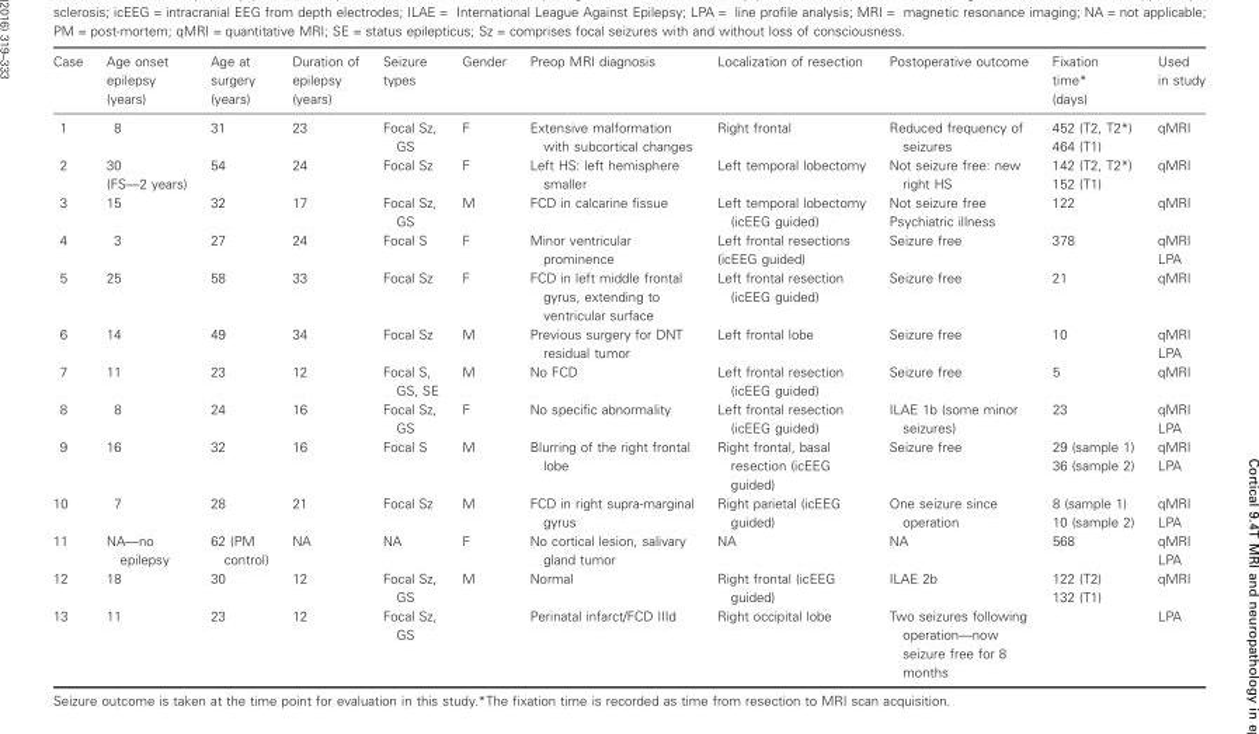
<table><thead><tr><td>Case</td><td>Age onset epilepsy (years)</td><td>Age at surgery (years)</td><td>Duration of epilepsy (years)</td><td>Seizure types</td><td>Gender</td><td>Preop MRI diagnosis</td><td>Localization of resection</td><td>Postoperative outcome</td><td>Fixation time* (days)</td><td>Used in study</td></tr></thead><tbody><tr><td>1</td><td>8</td><td>31</td><td>23</td><td>Focal Sz, GS</td><td>F</td><td>Extensive malformation with subcortical changes</td><td>Right frontal</td><td>Reduced frequency of seizures</td><td>452 (T2, T2*) 464 (T1)</td><td>qMRI</td></tr><tr><td>2</td><td>30 (FS—2 years)</td><td>54</td><td>24</td><td>Focal Sz</td><td>F</td><td>Left HS: left hemisphere smaller</td><td>Left temporal lobectomy</td><td>Not seizure free: new right HS</td><td>142 (T2, T2*) 152 (T1)</td><td>qMRI</td></tr><tr><td>3</td><td>15</td><td>32</td><td>17</td><td>Focal Sz, GS</td><td>M</td><td>FCD in calcarine fissue</td><td>Left temporal lobectomy (icEEG guided)</td><td>Not seizure free Psychiatric illness</td><td>122</td><td>qMRI</td></tr><tr><td>4</td><td>3</td><td>27</td><td>24</td><td>Focal S</td><td>F</td><td>Minor ventricular prominence</td><td>Left frontal resections (icEEG guided)</td><td>Seizure free</td><td>378</td><td>qMRI LPA</td></tr><tr><td>5</td><td>25</td><td>58</td><td>33</td><td>Focal Sz</td><td>F</td><td>FCD in left middle frontal gyrus, extending to ventricular surface</td><td>Left frontal resection (icEEG guided)</td><td>Seizure free</td><td>21</td><td>qMRI</td></tr><tr><td>6</td><td>14</td><td>49</td><td>34</td><td>Focal Sz</td><td>M</td><td>Previous surgery for DNT residual tumor</td><td>Left frontal lobe</td><td>Seizure free</td><td>10</td><td>qMRI LPA</td></tr><tr><td>7</td><td>11</td><td>23</td><td>12</td><td>Focal S, GS, SE</td><td>M</td><td>No FCD</td><td>Left frontal resection (icEEG guided)</td><td>Seizure free</td><td>5</td><td>qMRI</td></tr><tr><td>8</td><td>8</td><td>24</td><td>16</td><td>Focal Sz, GS</td><td>F</td><td>No specific abnormality</td><td>Left frontal resection (icEEG guided)</td><td>ILAE 1b (some minor seizures)</td><td>23</td><td>qMRI LPA</td></tr><tr><td>9</td><td>16</td><td>32</td><td>16</td><td>Focal S</td><td>M</td><td>Blurring of the right frontal lobe</td><td>Right frontal, basal resection (icEEG guided)</td><td>Seizure free</td><td>29 (sample 1) 36 (sample 2)</td><td>qMRI LPA</td></tr><tr><td>10</td><td>7</td><td>28</td><td>21</td><td>Focal Sz</td><td>M</td><td>FCD in right supra-marginal gyrus</td><td>Right parietal (icEEG guided)</td><td>One seizure since operation</td><td>8 (sample 1) 10 (sample 2)</td><td>qMRI LPA</td></tr><tr><td>11</td><td>NA—no epilepsy</td><td>62 (PM control)</td><td>NA</td><td>NA</td><td>F</td><td>No cortical lesion, salivary gland tumor</td><td>NA</td><td>NA</td><td>568</td><td>qMRI LPA</td></tr><tr><td>12</td><td>18</td><td>30</td><td>12</td><td>Focal Sz, GS</td><td>M</td><td>Normal</td><td>Right frontal (icEEG guided)</td><td>ILAE 2b</td><td>122 (T2) 132 (T1)</td><td>qMRI</td></tr><tr><td>13</td><td>11</td><td>23</td><td>12</td><td>Focal Sz, GS</td><td></td><td>Perinatal infarct/FCD IIId</td><td>Right occipital lobe</td><td>Two seizures following operation—now seizure free for 8 months</td><td></td><td>LPA</td></tr></tbody></table>